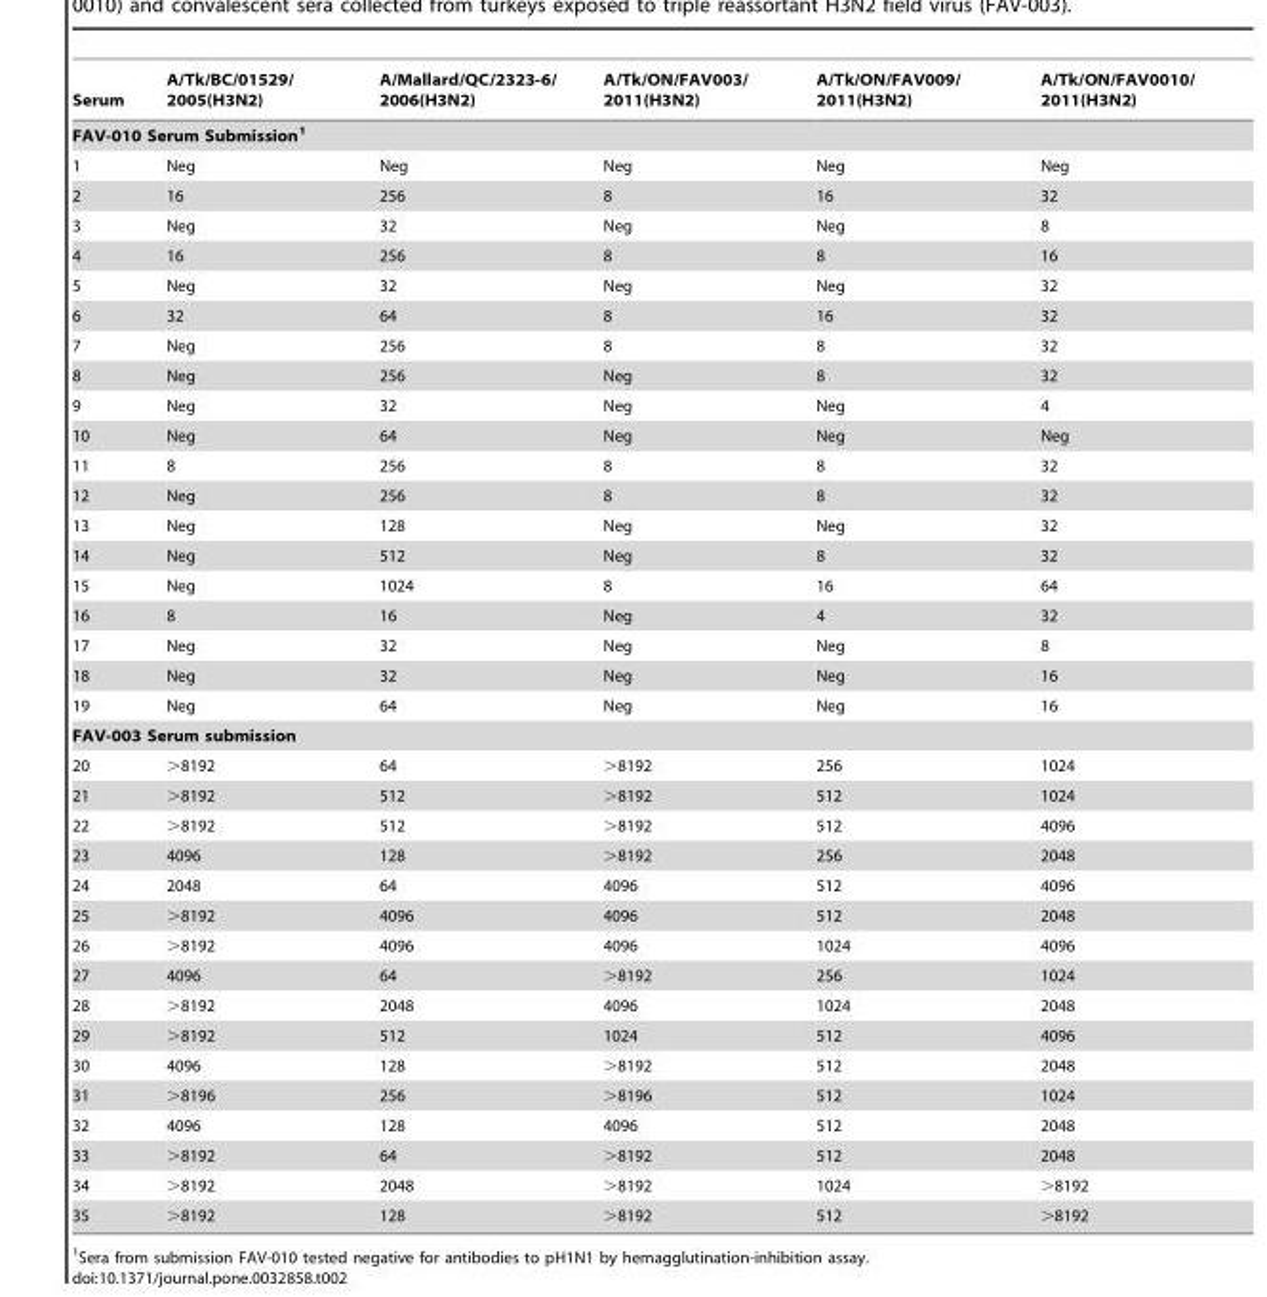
<table><thead><tr><td>Serum</td><td>A/Tk/BC/01529/ 2005(H3N2)</td><td>A/Mallard/QC/2323-6/ 2006(H3N2)</td><td>A/Tk/ON/FAV003/ 2011(H3N2)</td><td>A/Tk/ON/FAV009/ 2011(H3N2)</td><td>A/Tk/ON/FAV0010/ 2011(H3N2)</td></tr></thead><tbody><tr><td colspan="6">FAV-010 Serum Submission<sup>1</sup></td></tr><tr><td>1</td><td>Neg</td><td>Neg</td><td>Neg</td><td>Neg</td><td>Neg</td></tr><tr><td>2</td><td>16</td><td>256</td><td>8</td><td>16</td><td>32</td></tr><tr><td>3</td><td>Neg</td><td>32</td><td>Neg</td><td>Neg</td><td>8</td></tr><tr><td>4</td><td>16</td><td>256</td><td>8</td><td>8</td><td>16</td></tr><tr><td>5</td><td>Neg</td><td>32</td><td>Neg</td><td>Neg</td><td>32</td></tr><tr><td>6</td><td>32</td><td>64</td><td>8</td><td>16</td><td>32</td></tr><tr><td>7</td><td>Neg</td><td>256</td><td>8</td><td>8</td><td>32</td></tr><tr><td>8</td><td>Neg</td><td>256</td><td>Neg</td><td>8</td><td>32</td></tr><tr><td>9</td><td>Neg</td><td>32</td><td>Neg</td><td>Neg</td><td>4</td></tr><tr><td>10</td><td>Neg</td><td>64</td><td>Neg</td><td>Neg</td><td>Neg</td></tr><tr><td>11</td><td>8</td><td>256</td><td>8</td><td>8</td><td>32</td></tr><tr><td>12</td><td>Neg</td><td>256</td><td>8</td><td>8</td><td>32</td></tr><tr><td>13</td><td>Neg</td><td>128</td><td>Neg</td><td>Neg</td><td>32</td></tr><tr><td>14</td><td>Neg</td><td>512</td><td>Neg</td><td>8</td><td>32</td></tr><tr><td>15</td><td>Neg</td><td>1024</td><td>8</td><td>16</td><td>64</td></tr><tr><td>16</td><td>8</td><td>16</td><td>Neg</td><td>4</td><td>32</td></tr><tr><td>17</td><td>Neg</td><td>32</td><td>Neg</td><td>Neg</td><td>8</td></tr><tr><td>18</td><td>Neg</td><td>32</td><td>Neg</td><td>Neg</td><td>16</td></tr><tr><td>19</td><td>Neg</td><td>64</td><td>Neg</td><td>Neg</td><td>16</td></tr><tr><td colspan="6">FAV-003 Serum submission</td></tr><tr><td>20</td><td>&gt;8192</td><td>64</td><td>&gt;8192</td><td>256</td><td>1024</td></tr><tr><td>21</td><td>&gt;8192</td><td>512</td><td>&gt;8192</td><td>512</td><td>1024</td></tr><tr><td>22</td><td>&gt;8192</td><td>512</td><td>&gt;8192</td><td>512</td><td>4096</td></tr><tr><td>23</td><td>4096</td><td>128</td><td>&gt;8192</td><td>256</td><td>2048</td></tr><tr><td>24</td><td>2048</td><td>64</td><td>4096</td><td>512</td><td>4096</td></tr><tr><td>25</td><td>&gt;8192</td><td>4096</td><td>4096</td><td>512</td><td>2048</td></tr><tr><td>26</td><td>&gt;8192</td><td>4096</td><td>4096</td><td>1024</td><td>4096</td></tr><tr><td>27</td><td>4096</td><td>64</td><td>&gt;8192</td><td>256</td><td>1024</td></tr><tr><td>28</td><td>&gt;8192</td><td>2048</td><td>4096</td><td>1024</td><td>2048</td></tr><tr><td>29</td><td>&gt;8192</td><td>512</td><td>1024</td><td>512</td><td>4096</td></tr><tr><td>30</td><td>4096</td><td>128</td><td>&gt;8192</td><td>512</td><td>2048</td></tr><tr><td>31</td><td>&gt;8196</td><td>256</td><td>&gt;8196</td><td>512</td><td>1024</td></tr><tr><td>32</td><td>4096</td><td>128</td><td>4096</td><td>512</td><td>2048</td></tr><tr><td>33</td><td>&gt;8192</td><td>64</td><td>&gt;8192</td><td>512</td><td>2048</td></tr><tr><td>34</td><td>&gt;8192</td><td>2048</td><td>&gt;8192</td><td>1024</td><td>&gt;8192</td></tr><tr><td>35</td><td>&gt;8192</td><td>128</td><td>&gt;8192</td><td>512</td><td>&gt;8192</td></tr></tbody></table>